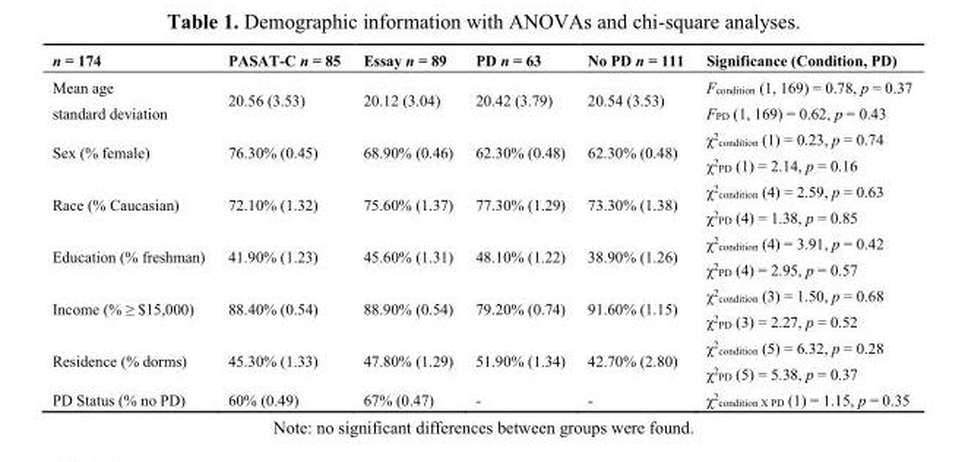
<table><thead><tr><td>n = 174</td><td>PASAT-C n = 85</td><td>Essay n = 89</td><td>PD n = 63</td><td>No PD n = 111</td><td>Significance (Condition, PD)</td></tr></thead><tbody><tr><td>Mean age standard deviation</td><td>20.56 (3.53)</td><td>20.12 (3.04)</td><td>20.42 (3.79)</td><td>20.54 (3.53)</td><td>F<sub>condition</sub> (1, 169) = 0.78, p = 0.37 F<sub>PD</sub> (1, 169) = 0.62, p = 0.43</td></tr><tr><td>Sex (% female)</td><td>76.30% (0.45)</td><td>68.90% (0.46)</td><td>62.30% (0.48)</td><td>62.30% (0.48)</td><td>χ<sup>2</sup><sub>condition</sub> (1) = 0.23, p = 0.74 χ<sup>2</sup><sub>PD</sub> (1) = 2.14, p = 0.16</td></tr><tr><td>Race (% Caucasian)</td><td>72.10% (1.32)</td><td>75.60% (1.37)</td><td>77.30% (1.29)</td><td>73.30% (1.38)</td><td>χ<sup>2</sup><sub>condition</sub> (4) = 2.59, p = 0.63 χ<sup>2</sup><sub>PD</sub> (4) = 1.38, p = 0.85</td></tr><tr><td>Education (% freshman)</td><td>41.90% (1.23)</td><td>45.60% (1.31)</td><td>48.10% (1.22)</td><td>38.90% (1.26)</td><td>χ<sup>2</sup><sub>condition</sub> (4) = 3.91, p = 0.42 χ<sup>2</sup><sub>PD</sub> (4) = 2.95, p = 0.57</td></tr><tr><td>Income (% ≥ $15,000)</td><td>88.40% (0.54)</td><td>88.90% (0.54)</td><td>79.20% (0.74)</td><td>91.60% (1.15)</td><td>χ<sup>2</sup><sub>condition</sub> (3) = 1.50, p = 0.68 χ<sup>2</sup><sub>PD</sub> (3) = 2.27, p = 0.52</td></tr><tr><td>Residence (% dorms)</td><td>45.30% (1.33)</td><td>47.80% (1.29)</td><td>51.90% (1.34)</td><td>42.70% (2.80)</td><td>χ<sup>2</sup><sub>condition</sub> (5) = 6.32, p = 0.28 χ<sup>2</sup><sub>PD</sub> (5) = 5.38, p = 0.37</td></tr><tr><td>PD Status (% no PD)</td><td>60% (0.49)</td><td>67% (0.47)</td><td>-</td><td>-</td><td>χ<sup>2</sup><sub>condition X PD</sub> (1) = 1.15, p = 0.35</td></tr></tbody></table>